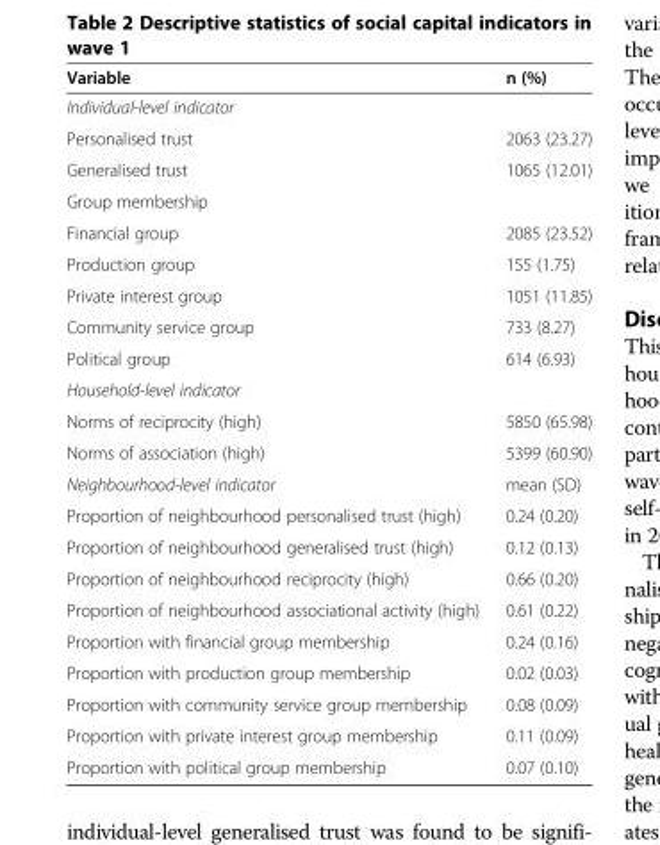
<table><thead><tr><td>Variable</td><td>n (%)</td></tr></thead><tbody><tr><td colspan="2">Individual-level indicator</td></tr><tr><td>Personalised trust</td><td>2063 (23.27)</td></tr><tr><td>Generalised trust</td><td>1065 (12.01)</td></tr><tr><td colspan="2">Group membership</td></tr><tr><td>Financial group</td><td>2085 (23.52)</td></tr><tr><td>Production group</td><td>155 (1.75)</td></tr><tr><td>Private interest group</td><td>1051 (11.85)</td></tr><tr><td>Community service group</td><td>733 (8.27)</td></tr><tr><td>Political group</td><td>614 (6.93)</td></tr><tr><td colspan="2">Household-level indicator</td></tr><tr><td>Norms of reciprocity (high)</td><td>5850 (65.98)</td></tr><tr><td>Norms of association (high)</td><td>5399 (60.90)</td></tr><tr><td>Neighbourhood-level indicator</td><td>mean (SD)</td></tr><tr><td>Proportion of neighbourhood personalised trust (high)</td><td>0.24 (0.20)</td></tr><tr><td>Proportion of neighbourhood generalised trust (high)</td><td>0.12 (0.13)</td></tr><tr><td>Proportion of neighbourhood reciprocity (high)</td><td>0.66 (0.20)</td></tr><tr><td>Proportion of neighbourhood associational activity (high)</td><td>0.61 (0.22)</td></tr><tr><td>Proportion with financial group membership</td><td>0.24 (0.16)</td></tr><tr><td>Proportion with production group membership</td><td>0.02 (0.03)</td></tr><tr><td>Proportion with community service group membership</td><td>0.08 (0.09)</td></tr><tr><td>Proportion with private interest group membership</td><td>0.11 (0.09)</td></tr><tr><td>Proportion with political group membership</td><td>0.07 (0.10)</td></tr></tbody></table>